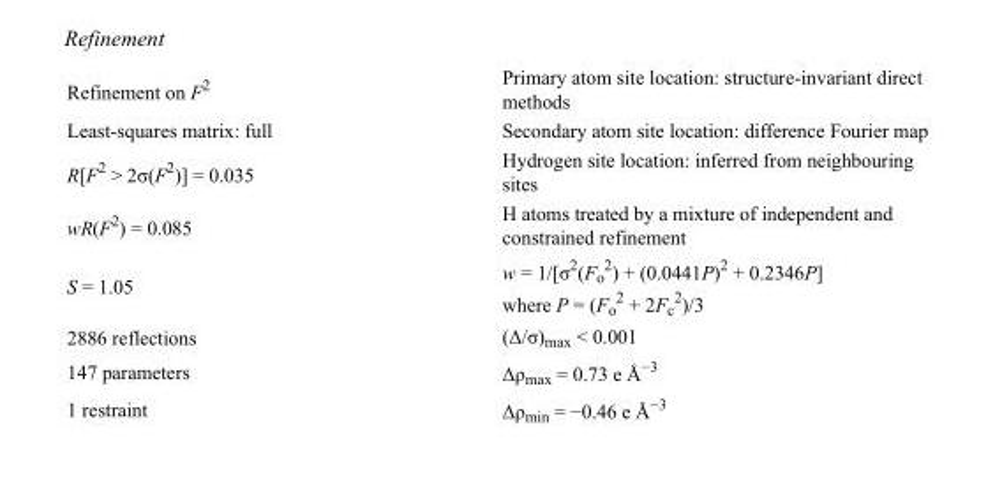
<table><tbody><tr><td>Refinement on F<sup>2</sup></td><td>Primary atom site location: structure-invariant direct methods</td></tr><tr><td>Least-squares matrix: full</td><td>Secondary atom site location: difference Fourier map</td></tr><tr><td>R[F<sup>2</sup> &gt; 2σ(F<sup>2</sup>)] = 0.035</td><td>Hydrogen site location: inferred from neighbouring sites</td></tr><tr><td>wR(F<sup>2</sup>) = 0.085</td><td>H atoms treated by a mixture of independent and constrained refinement</td></tr><tr><td>S = 1.05</td><td>w = 1/[σ<sup>2</sup>(F<sub>o</sub> <sup>2</sup>) + (0.0441P)<sup>2</sup> + 0.2346P] where P = (F<sub>o</sub> <sup>2</sup> + 2F<sub>c</sub> <sup>2</sup>)/3</td></tr><tr><td>2886 reflections</td><td>(Δ/σ)<sub>max</sub> &lt; 0.001</td></tr><tr><td>147 parameters</td><td>Δρ<sub>max</sub> = 0.73 e Å<sup>−3</sup></td></tr><tr><td>1 restraint</td><td>Δρ<sub>min</sub> = −0.46 e Å<sup>−3</sup></td></tr></tbody></table>